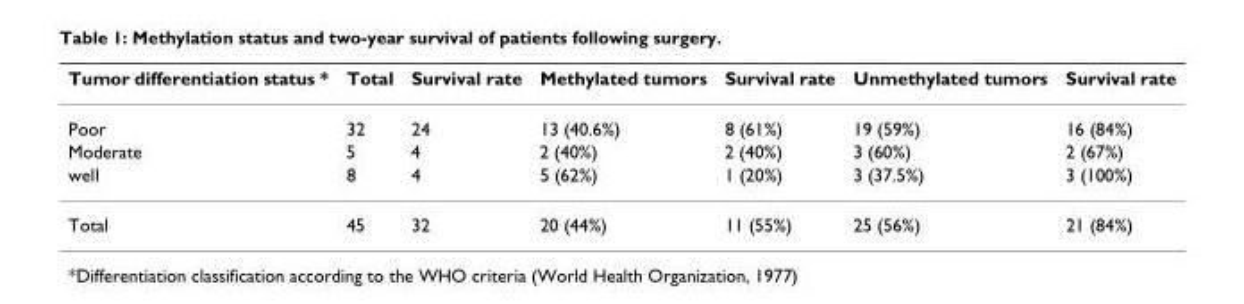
<table><thead><tr><td>Tumor differentiation status *</td><td>Total</td><td>Survival rate</td><td>Methylated tumors</td><td>Survival rate</td><td>Unmethylated tumors</td><td>Survival rate</td></tr></thead><tbody><tr><td>Poor</td><td>32</td><td>24</td><td>13 (40.6%)</td><td>8 (61%)</td><td>19 (59%)</td><td>16 (84%)</td></tr><tr><td>Moderate</td><td>5</td><td>4</td><td>2 (40%)</td><td>2 (40%)</td><td>3 (60%)</td><td>2 (67%)</td></tr><tr><td>well</td><td>8</td><td>4</td><td>5 (62%)</td><td>1 (20%)</td><td>3 (37.5%)</td><td>3 (100%)</td></tr><tr><td>Total</td><td>45</td><td>32</td><td>20 (44%)</td><td>11 (55%)</td><td>25 (56%)</td><td>21 (84%)</td></tr></tbody></table>